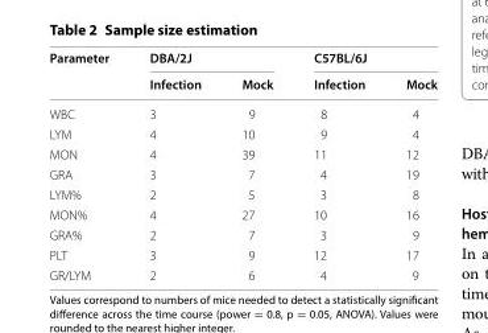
<table><thead><tr><td rowspan="2">Parameter</td><td colspan="2">DBA/2J</td><td colspan="2">C57BL/6J</td></tr><tr><td>Infection</td><td>Mock</td><td>Infection</td><td>Mock</td></tr></thead><tbody><tr><td>WBC</td><td>3</td><td>9</td><td>8</td><td>4</td></tr><tr><td>LYM</td><td>4</td><td>10</td><td>9</td><td>4</td></tr><tr><td>MON</td><td>4</td><td>39</td><td>11</td><td>12</td></tr><tr><td>GRA</td><td>3</td><td>7</td><td>4</td><td>19</td></tr><tr><td>LYM%</td><td>2</td><td>5</td><td>3</td><td>8</td></tr><tr><td>MON%</td><td>4</td><td>27</td><td>10</td><td>16</td></tr><tr><td>GRA%</td><td>2</td><td>7</td><td>3</td><td>9</td></tr><tr><td>PLT</td><td>3</td><td>9</td><td>12</td><td>17</td></tr><tr><td>GR/LYM</td><td>2</td><td>6</td><td>4</td><td>9</td></tr></tbody></table>